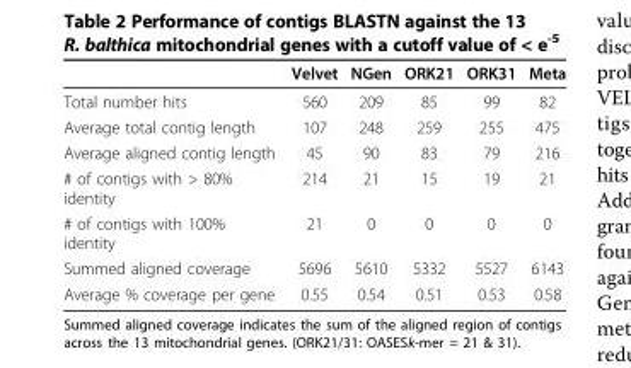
<table><thead><tr><td></td><td>Velvet</td><td>NGen</td><td>ORK21</td><td>ORK31</td><td>Meta</td></tr></thead><tbody><tr><td>Total number hits</td><td>560</td><td>209</td><td>85</td><td>99</td><td>82</td></tr><tr><td>Average total contig length</td><td>107</td><td>248</td><td>259</td><td>255</td><td>475</td></tr><tr><td>Average aligned contig length</td><td>45</td><td>90</td><td>83</td><td>79</td><td>216</td></tr><tr><td># of contigs with &gt; 80% identity</td><td>214</td><td>21</td><td>15</td><td>19</td><td>21</td></tr><tr><td># of contigs with 100% identity</td><td>21</td><td>0</td><td>0</td><td>0</td><td>0</td></tr><tr><td>Summed aligned coverage</td><td>5696</td><td>5610</td><td>5332</td><td>5527</td><td>6143</td></tr><tr><td>Average % coverage per gene</td><td>0.55</td><td>0.54</td><td>0.51</td><td>0.53</td><td>0.58</td></tr></tbody></table>